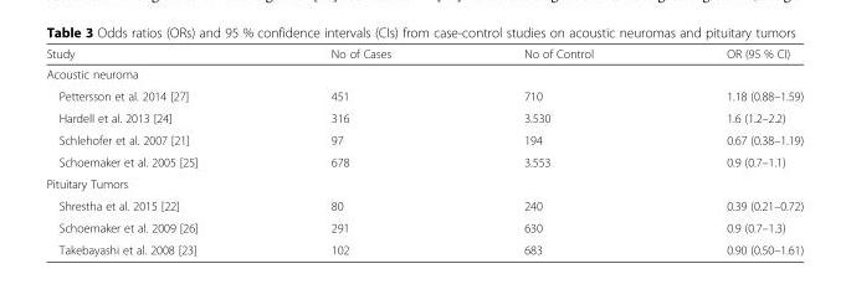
<table><thead><tr><td>Study</td><td>No of Cases</td><td>No of Control</td><td>OR (95 % CI)</td></tr></thead><tbody><tr><td colspan="4">Acoustic neuroma</td></tr><tr><td>Pettersson et al. 2014 [27]</td><td>451</td><td>710</td><td>1.18 (0.88–1.59)</td></tr><tr><td>Hardell et al. 2013 [24]</td><td>316</td><td>3.530</td><td>1.6 (1.2–2.2)</td></tr><tr><td>Schlehofer et al. 2007 [21]</td><td>97</td><td>194</td><td>0.67 (0.38–1.19)</td></tr><tr><td>Schoemaker et al. 2005 [25]</td><td>678</td><td>3.553</td><td>0.9 (0.7–1.1)</td></tr><tr><td colspan="4">Pituitary Tumors</td></tr><tr><td>Shrestha et al. 2015 [22]</td><td>80</td><td>240</td><td>0.39 (0.21–0.72)</td></tr><tr><td>Schoemaker et al. 2009 [26]</td><td>291</td><td>630</td><td>0.9 (0.7–1.3)</td></tr><tr><td>Takebayashi et al. 2008 [23]</td><td>102</td><td>683</td><td>0.90 (0.50–1.61)</td></tr></tbody></table>